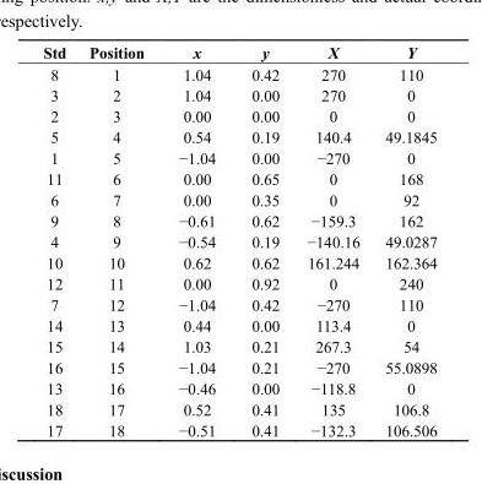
<table><thead><tr><td>Std</td><td>Position</td><td>x</td><td>y</td><td>X</td><td>Y</td></tr></thead><tbody><tr><td>8</td><td>1</td><td>1.04</td><td>0.42</td><td>270</td><td>110</td></tr><tr><td>3</td><td>2</td><td>1.04</td><td>0.00</td><td>270</td><td>0</td></tr><tr><td>2</td><td>3</td><td>0.00</td><td>0.00</td><td>0</td><td>0</td></tr><tr><td>5</td><td>4</td><td>0.54</td><td>0.19</td><td>140.4</td><td>49.1845</td></tr><tr><td>1</td><td>5</td><td>−1.04</td><td>0.00</td><td>−270</td><td>0</td></tr><tr><td>11</td><td>6</td><td>0.00</td><td>0.65</td><td>0</td><td>168</td></tr><tr><td>6</td><td>7</td><td>0.00</td><td>0.35</td><td>0</td><td>92</td></tr><tr><td>9</td><td>8</td><td>−0.61</td><td>0.62</td><td>−159.3</td><td>162</td></tr><tr><td>4</td><td>9</td><td>−0.54</td><td>0.19</td><td>−140.16</td><td>49.0287</td></tr><tr><td>10</td><td>10</td><td>0.62</td><td>0.62</td><td>161.244</td><td>162.364</td></tr><tr><td>12</td><td>11</td><td>0.00</td><td>0.92</td><td>0</td><td>240</td></tr><tr><td>7</td><td>12</td><td>−1.04</td><td>0.42</td><td>−270</td><td>110</td></tr><tr><td>14</td><td>13</td><td>0.44</td><td>0.00</td><td>113.4</td><td>0</td></tr><tr><td>15</td><td>14</td><td>1.03</td><td>0.21</td><td>267.3</td><td>54</td></tr><tr><td>16</td><td>15</td><td>−1.04</td><td>0.21</td><td>−270</td><td>55.0898</td></tr><tr><td>13</td><td>16</td><td>−0.46</td><td>0.00</td><td>−118.8</td><td>0</td></tr><tr><td>18</td><td>17</td><td>0.52</td><td>0.41</td><td>135</td><td>106.8</td></tr><tr><td>17</td><td>18</td><td>−0.51</td><td>0.41</td><td>−132.3</td><td>106.506</td></tr></tbody></table>